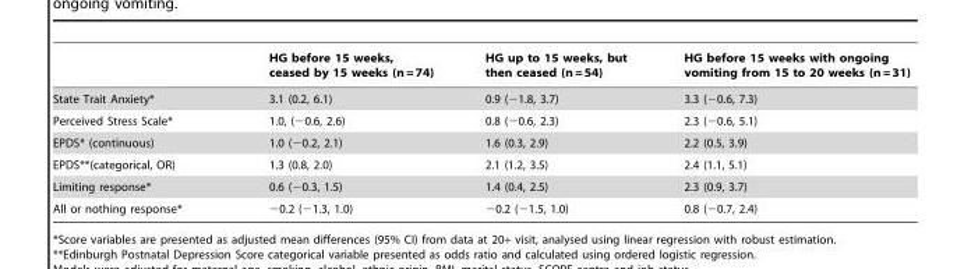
<table><thead><tr><td></td><td>HG before 15 weeks, ceased by 15 weeks (n = 74)</td><td>HG up to 15 weeks, but then ceased (n = 54)</td><td>HG before 15 weeks with ongoing vomiting from 15 to 20 weeks (n = 31)</td></tr></thead><tbody><tr><td>State Trait Anxiety*</td><td>3.1 (0.2, 6.1)</td><td>0.9 (−1.8, 3.7)</td><td>3.3 (−0.6, 7.3)</td></tr><tr><td>Perceived Stress Scale*</td><td>1.0, (−0.6, 2.6)</td><td>0.8 (−0.6, 2.3)</td><td>2.3 (−0.6, 5.1)</td></tr><tr><td>EPDS* (continuous)</td><td>1.0 (−0.2, 2.1)</td><td>1.6 (0.3, 2.9)</td><td>2.2 (0.5, 3.9)</td></tr><tr><td>EPDS**(categorical, OR)</td><td>1.3 (0.8, 2.0)</td><td>2.1 (1.2, 3.5)</td><td>2.4 (1.1, 5.1)</td></tr><tr><td>Limiting response*</td><td>0.6 (−0.3, 1.5)</td><td>1.4 (0.4, 2.5)</td><td>2.3 (0.9, 3.7)</td></tr><tr><td>All or nothing response*</td><td>−0.2 (−1.3, 1.0)</td><td>−0.2 (−1.5, 1.0)</td><td>0.8 (−0.7, 2.4)</td></tr></tbody></table>